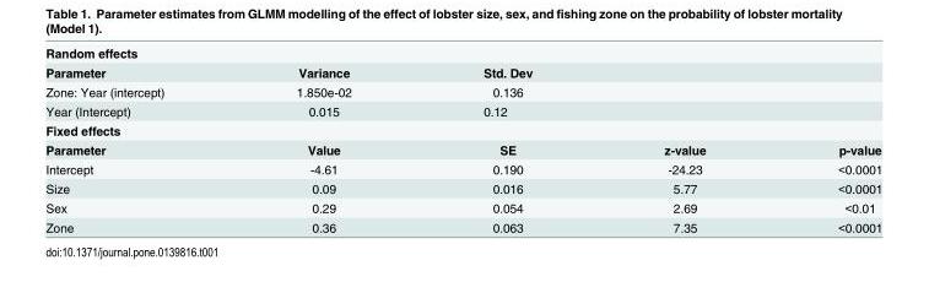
<table><tbody><tr><td colspan="5">Random effects</td></tr><tr><td>Parameter</td><td>Variance</td><td>Std. Dev</td><td></td><td></td></tr><tr><td>Zone: Year (intercept)</td><td>1.850e-02</td><td>0.136</td><td></td><td></td></tr><tr><td>Year (Intercept)</td><td>0.015</td><td>0.12</td><td></td><td></td></tr><tr><td colspan="5">Fixed effects</td></tr><tr><td>Parameter</td><td>Value</td><td>SE</td><td>z-value</td><td>p-value</td></tr><tr><td>Intercept</td><td>-4.61</td><td>0.190</td><td>-24.23</td><td>&lt;0.0001</td></tr><tr><td>Size</td><td>0.09</td><td>0.016</td><td>5.77</td><td>&lt;0.0001</td></tr><tr><td>Sex</td><td>0.29</td><td>0.054</td><td>2.69</td><td>&lt;0.01</td></tr><tr><td>Zone</td><td>0.36</td><td>0.063</td><td>7.35</td><td>&lt;0.0001</td></tr></tbody></table>